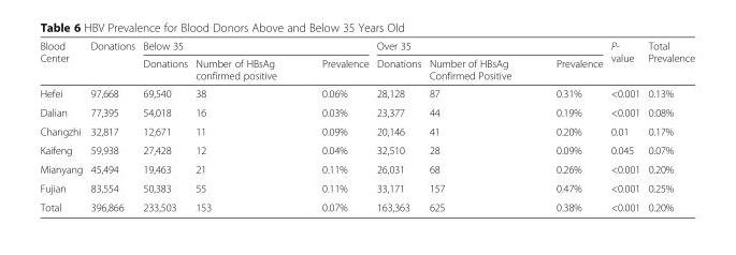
<table><thead><tr><td rowspan="2">Blood Center</td><td rowspan="2">Donations</td><td colspan="3">Below 35</td><td colspan="3">Over 35</td><td rowspan="2">P- value</td><td rowspan="2">Total Prevalence</td></tr><tr><td>Donations</td><td>Number of HBsAg confirmed positive</td><td>Prevalence</td><td>Donations</td><td>Number of HBsAg Confirmed Positive</td><td>Prevalence</td></tr></thead><tbody><tr><td>Hefei</td><td>97,668</td><td>69,540</td><td>38</td><td>0.06%</td><td>28,128</td><td>87</td><td>0.31%</td><td>&lt;0.001</td><td>0.13%</td></tr><tr><td>Dalian</td><td>77,395</td><td>54,018</td><td>16</td><td>0.03%</td><td>23,377</td><td>44</td><td>0.19%</td><td>&lt;0.001</td><td>0.08%</td></tr><tr><td>Changzhi</td><td>32,817</td><td>12,671</td><td>11</td><td>0.09%</td><td>20,146</td><td>41</td><td>0.20%</td><td>0.01</td><td>0.17%</td></tr><tr><td>Kaifeng</td><td>59,938</td><td>27,428</td><td>12</td><td>0.04%</td><td>32,510</td><td>28</td><td>0.09%</td><td>0.045</td><td>0.07%</td></tr><tr><td>Mianyang</td><td>45,494</td><td>19,463</td><td>21</td><td>0.11%</td><td>26,031</td><td>68</td><td>0.26%</td><td>&lt;0.001</td><td>0.20%</td></tr><tr><td>Fujian</td><td>83,554</td><td>50,383</td><td>55</td><td>0.11%</td><td>33,171</td><td>157</td><td>0.47%</td><td>&lt;0.001</td><td>0.25%</td></tr><tr><td>Total</td><td>396,866</td><td>233,503</td><td>153</td><td>0.07%</td><td>163,363</td><td>625</td><td>0.38%</td><td>&lt;0.001</td><td>0.20%</td></tr></tbody></table>